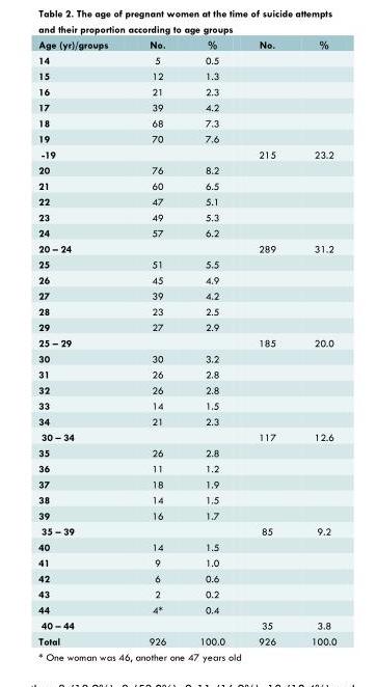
<table><thead><tr><td>Age (yr)/groups</td><td>No.</td><td>%</td><td>No.</td><td>%</td></tr></thead><tbody><tr><td>14</td><td>5</td><td>0.5</td><td></td><td></td></tr><tr><td>15</td><td>12</td><td>1.3</td><td></td><td></td></tr><tr><td>16</td><td>21</td><td>2.3</td><td></td><td></td></tr><tr><td>17</td><td>39</td><td>4.2</td><td></td><td></td></tr><tr><td>18</td><td>68</td><td>7.3</td><td></td><td></td></tr><tr><td>19</td><td>70</td><td>7.6</td><td></td><td></td></tr><tr><td>-19</td><td></td><td></td><td>215</td><td>23.2</td></tr><tr><td>20</td><td>76</td><td>8.2</td><td></td><td></td></tr><tr><td>21</td><td>60</td><td>6.5</td><td></td><td></td></tr><tr><td>22</td><td>47</td><td>5.1</td><td></td><td></td></tr><tr><td>23</td><td>49</td><td>5.3</td><td></td><td></td></tr><tr><td>24</td><td>57</td><td>6.2</td><td></td><td></td></tr><tr><td>20 – 24</td><td></td><td></td><td>289</td><td>31.2</td></tr><tr><td>25</td><td>51</td><td>5.5</td><td></td><td></td></tr><tr><td>26</td><td>45</td><td>4.9</td><td></td><td></td></tr><tr><td>27</td><td>39</td><td>4.2</td><td></td><td></td></tr><tr><td>28</td><td>23</td><td>2.5</td><td></td><td></td></tr><tr><td>29</td><td>27</td><td>2.9</td><td></td><td></td></tr><tr><td>25 – 29</td><td></td><td></td><td>185</td><td>20.0</td></tr><tr><td>30</td><td>30</td><td>3.2</td><td></td><td></td></tr><tr><td>31</td><td>26</td><td>2.8</td><td></td><td></td></tr><tr><td>32</td><td>26</td><td>2.8</td><td></td><td></td></tr><tr><td>33</td><td>14</td><td>1.5</td><td></td><td></td></tr><tr><td>34</td><td>21</td><td>2.3</td><td></td><td></td></tr><tr><td>30 – 34</td><td></td><td></td><td>117</td><td>12.6</td></tr><tr><td>35</td><td>26</td><td>2.8</td><td></td><td></td></tr><tr><td>36</td><td>11</td><td>1.2</td><td></td><td></td></tr><tr><td>37</td><td>18</td><td>1.9</td><td></td><td></td></tr><tr><td>38</td><td>14</td><td>1.5</td><td></td><td></td></tr><tr><td>39</td><td>16</td><td>1.7</td><td></td><td></td></tr><tr><td>35 – 39</td><td></td><td></td><td>85</td><td>9.2</td></tr><tr><td>40</td><td>14</td><td>1.5</td><td></td><td></td></tr><tr><td>41</td><td>9</td><td>1.0</td><td></td><td></td></tr><tr><td>42</td><td>6</td><td>0.6</td><td></td><td></td></tr><tr><td>43</td><td>2</td><td>0.2</td><td></td><td></td></tr><tr><td>44</td><td>4*</td><td>0.4</td><td></td><td></td></tr><tr><td>40 – 44</td><td></td><td></td><td>35</td><td>3.8</td></tr><tr><td>Total</td><td>926</td><td>100.0</td><td>926</td><td>100.0</td></tr></tbody></table>